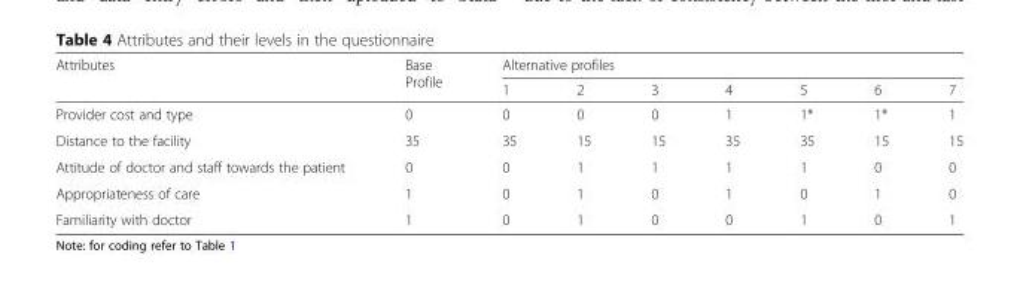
<table><thead><tr><td rowspan="2">Attributes</td><td rowspan="2">Base Profile</td><td colspan="7">Alternative profiles</td></tr><tr><td>1</td><td>2</td><td>3</td><td>4</td><td>5</td><td>6</td><td>7</td></tr></thead><tbody><tr><td>Provider cost and type</td><td>0</td><td>0</td><td>0</td><td>0</td><td>1</td><td>1*</td><td>1*</td><td>1</td></tr><tr><td>Distance to the facility</td><td>35</td><td>35</td><td>15</td><td>15</td><td>35</td><td>35</td><td>15</td><td>15</td></tr><tr><td>Attitude of doctor and staff towards the patient</td><td>0</td><td>0</td><td>1</td><td>1</td><td>1</td><td>1</td><td>0</td><td>0</td></tr><tr><td>Appropriateness of care</td><td>1</td><td>0</td><td>1</td><td>0</td><td>1</td><td>0</td><td>1</td><td>0</td></tr><tr><td>Familiarity with doctor</td><td>1</td><td>0</td><td>1</td><td>0</td><td>0</td><td>1</td><td>0</td><td>1</td></tr></tbody></table>